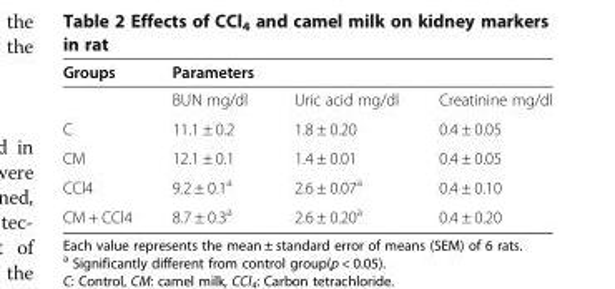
<table><thead><tr><td>Groups</td><td>Parameters</td><td></td><td></td></tr></thead><tbody><tr><td></td><td>BUN mg/dl</td><td>Uric acid mg/dl</td><td>Creatinine mg/dl</td></tr><tr><td>C</td><td>11.1 ± 0.2</td><td>1.8 ± 0.20</td><td>0.4 ± 0.05</td></tr><tr><td>CM</td><td>12.1 ± 0.1</td><td>1.4 ± 0.01</td><td>0.4 ± 0.05</td></tr><tr><td>CCl4</td><td>9.2 ± 0.1<sup>a</sup></td><td>2.6 ± 0.07<sup>a</sup></td><td>0.4 ± 0.10</td></tr><tr><td>CM + CCl4</td><td>8.7 ± 0.3<sup>a</sup></td><td>2.6 ± 0.20<sup>a</sup></td><td>0.4 ± 0.20</td></tr></tbody></table>